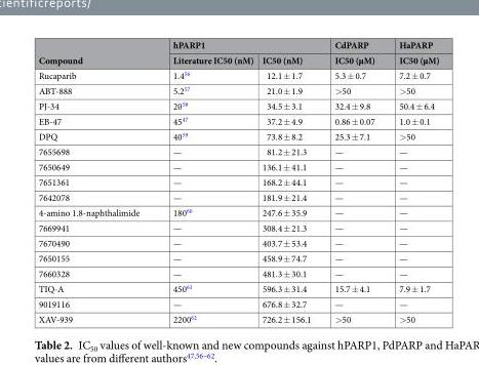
<table><thead><tr><td rowspan="2">Compound</td><td colspan="2">hPARP1</td><td rowspan="2">CdPARP IC50 (µM)</td><td rowspan="2">HaPARP IC50 (µM)</td></tr><tr><td>Literature IC50 (nM)</td><td>IC50 (nM)</td></tr></thead><tbody><tr><td>Rucaparib</td><td>1.4<sup>56</sup></td><td>12.1 ± 1.7</td><td>5.3 ± 0.7</td><td>7.2 ± 0.7</td></tr><tr><td>ABT-888</td><td>5.2<sup>57</sup></td><td>21.0 ± 1.9</td><td>&gt;50</td><td>&gt;50</td></tr><tr><td>PJ-34</td><td>20<sup>58</sup></td><td>34.5 ± 3.1</td><td>32.4 ± 9.8</td><td>50.4 ± 6.4</td></tr><tr><td>EB-47</td><td>45<sup>47</sup></td><td>37.2 ± 4.9</td><td>0.86 ± 0.07</td><td>1.0 ± 0.1</td></tr><tr><td>DPQ</td><td>40<sup>59</sup></td><td>73.8 ± 8.2</td><td>25.3 ± 7.1</td><td>&gt;50</td></tr><tr><td>7655698</td><td>—</td><td>81.2 ± 21.3</td><td>—</td><td>—</td></tr><tr><td>7650649</td><td>—</td><td>136.1 ± 41.1</td><td>—</td><td>—</td></tr><tr><td>7651361</td><td>—</td><td>168.2 ± 44.1</td><td>—</td><td>—</td></tr><tr><td>7642078</td><td>—</td><td>181.9 ± 21.4</td><td>—</td><td>—</td></tr><tr><td>4-amino 1.8-naphthalimide</td><td>180<sup>60</sup></td><td>247.6 ± 35.9</td><td>—</td><td>—</td></tr><tr><td>7669941</td><td>—</td><td>308.4 ± 21.3</td><td>—</td><td>—</td></tr><tr><td>7670490</td><td>—</td><td>403.7 ± 53.4</td><td>—</td><td>—</td></tr><tr><td>7650155</td><td>—</td><td>458.9 ± 74.7</td><td>—</td><td>—</td></tr><tr><td>7660328</td><td>—</td><td>481.3 ± 30.1</td><td>—</td><td>—</td></tr><tr><td>TIQ-A</td><td>450<sup>61</sup></td><td>596.3 ± 31.4</td><td>15.7 ± 4.1</td><td>7.9 ± 1.7</td></tr><tr><td>9019116</td><td>—</td><td>676.8 ± 32.7</td><td>—</td><td>—</td></tr><tr><td>XAV-939</td><td>2200<sup>62</sup></td><td>726.2 ± 156.1</td><td>&gt;50</td><td>&gt;50</td></tr></tbody></table>